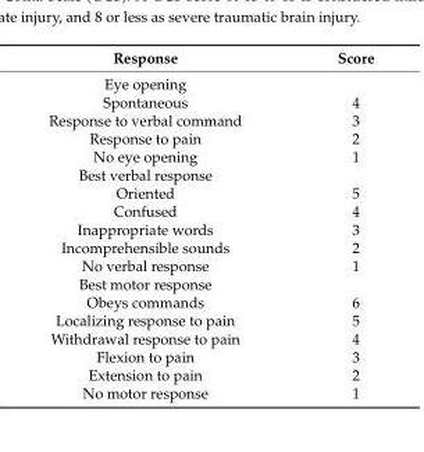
<table><thead><tr><td>Response</td><td>Score</td></tr></thead><tbody><tr><td colspan="2">Eye opening</td></tr><tr><td>Spontaneous</td><td>4</td></tr><tr><td>Response to verbal command</td><td>3</td></tr><tr><td>Response to pain</td><td>2</td></tr><tr><td>No eye opening</td><td>1</td></tr><tr><td colspan="2">Best verbal response</td></tr><tr><td>Oriented</td><td>5</td></tr><tr><td>Confused</td><td>4</td></tr><tr><td>Inappropriate words</td><td>3</td></tr><tr><td>Incomprehensible sounds</td><td>2</td></tr><tr><td>No verbal response</td><td>1</td></tr><tr><td colspan="2">Best motor response</td></tr><tr><td>Obeys commands</td><td>6</td></tr><tr><td>Localizing response to pain</td><td>5</td></tr><tr><td>Withdrawal response to pain</td><td>4</td></tr><tr><td>Flexion to pain</td><td>3</td></tr><tr><td>Extension to pain</td><td>2</td></tr><tr><td>No motor response</td><td>1</td></tr></tbody></table>